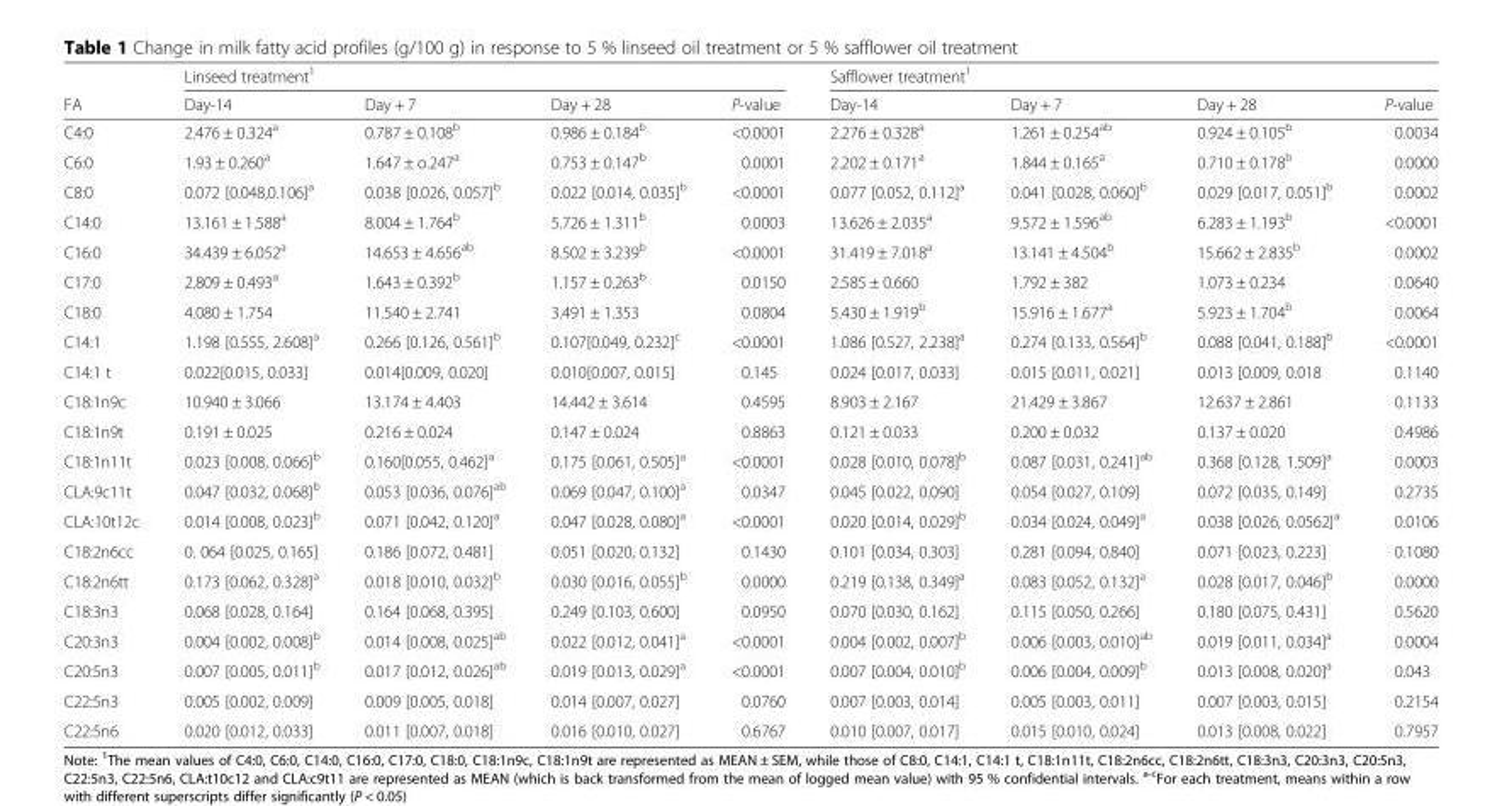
<table><thead><tr><td rowspan="2">FA</td><td colspan="4">Linseed treatment<sup>1</sup></td><td colspan="4">Safflower treatment<sup>1</sup></td></tr><tr><td>Day-14</td><td>Day + 7</td><td>Day + 28</td><td>P-value</td><td>Day-14</td><td>Day + 7</td><td>Day + 28</td><td>P-value</td></tr></thead><tbody><tr><td>C4:0</td><td>2.476 ± 0.324<sup>a</sup></td><td>0.787 ± 0.108<sup>b</sup></td><td>0.986 ± 0.184<sup>b</sup></td><td>&lt;0.0001</td><td>2.276 ± 0.328<sup>a</sup></td><td>1.261 ± 0.254<sup>ab</sup></td><td>0.924 ± 0.105<sup>b</sup></td><td>0.0034</td></tr><tr><td>C6:0</td><td>1.93 ± 0.260<sup>a</sup></td><td>1.647 ± o.247<sup>a</sup></td><td>0.753 ± 0.147<sup>b</sup></td><td>0.0001</td><td>2.202 ± 0.171<sup>a</sup></td><td>1.844 ± 0.165<sup>a</sup></td><td>0.710 ± 0.178<sup>b</sup></td><td>0.0000</td></tr><tr><td>C8:0</td><td>0.072 [0.048,0.106]<sup>a</sup></td><td>0.038 [0.026, 0.057]<sup>b</sup></td><td>0.022 [0.014, 0.035]<sup>b</sup></td><td>&lt;0.0001</td><td>0.077 [0.052, 0.112]<sup>a</sup></td><td>0.041 [0.028, 0.060]<sup>b</sup></td><td>0.029 [0.017, 0.051]<sup>b</sup></td><td>0.0002</td></tr><tr><td>C14:0</td><td>13.161 ± 1.588<sup>a</sup></td><td>8.004 ± 1.764<sup>b</sup></td><td>5.726 ± 1.311<sup>b</sup></td><td>0.0003</td><td>13.626 ± 2.035<sup>a</sup></td><td>9.572 ± 1.596<sup>ab</sup></td><td>6.283 ± 1.193<sup>b</sup></td><td>&lt;0.0001</td></tr><tr><td>C16:0</td><td>34.439 ± 6.052<sup>a</sup></td><td>14.653 ± 4.656<sup>ab</sup></td><td>8.502 ± 3.239<sup>b</sup></td><td>&lt;0.0001</td><td>31.419 ± 7.018<sup>a</sup></td><td>13.141 ± 4.504<sup>b</sup></td><td>15.662 ± 2.835<sup>b</sup></td><td>0.0002</td></tr><tr><td>C17:0</td><td>2.809 ± 0.493<sup>a</sup></td><td>1.643 ± 0.392<sup>b</sup></td><td>1.157 ± 0.263<sup>b</sup></td><td>0.0150</td><td>2.585 ± 0.660</td><td>1.792 ± 382</td><td>1.073 ± 0.234</td><td>0.0640</td></tr><tr><td>C18:0</td><td>4.080 ± 1.754</td><td>11.540 ± 2.741</td><td>3.491 ± 1.353</td><td>0.0804</td><td>5.430 ± 1.919<sup>b</sup></td><td>15.916 ± 1.677<sup>a</sup></td><td>5.923 ± 1.704<sup>b</sup></td><td>0.0064</td></tr><tr><td>C14:1</td><td>1.198 [0.555, 2.608]<sup>a</sup></td><td>0.266 [0.126, 0.561]<sup>b</sup></td><td>0.107[0.049, 0.232]<sup>c</sup></td><td>&lt;0.0001</td><td>1.086 [0.527, 2.238]<sup>a</sup></td><td>0.274 [0.133, 0.564]<sup>b</sup></td><td>0.088 [0.041, 0.188]<sup>b</sup></td><td>&lt;0.0001</td></tr><tr><td>C14:1 t</td><td>0.022[0.015, 0.033]</td><td>0.014[0.009, 0.020]</td><td>0.010[0.007, 0.015]</td><td>0.145</td><td>0.024 [0.017, 0.033]</td><td>0.015 [0.011, 0.021]</td><td>0.013 [0.009, 0.018</td><td>0.1140</td></tr><tr><td>C18:1n9c</td><td>10.940 ± 3.066</td><td>13.174 ± 4.403</td><td>14.442 ± 3.614</td><td>0.4595</td><td>8.903 ± 2.167</td><td>21.429 ± 3.867</td><td>12.637 ± 2.861</td><td>0.1133</td></tr><tr><td>C18:1n9t</td><td>0.191 ± 0.025</td><td>0.216 ± 0.024</td><td>0.147 ± 0.024</td><td>0.8863</td><td>0.121 ± 0.033</td><td>0.200 ± 0.032</td><td>0.137 ± 0.020</td><td>0.4986</td></tr><tr><td>C18:1n11t</td><td>0.023 [0.008, 0.066]<sup>b</sup></td><td>0.160[0.055, 0.462]<sup>a</sup></td><td>0.175 [0.061, 0.505]<sup>a</sup></td><td>&lt;0.0001</td><td>0.028 [0.010, 0.078]<sup>b</sup></td><td>0.087 [0.031, 0.241]<sup>ab</sup></td><td>0.368 [0.128, 1.509]<sup>a</sup></td><td>0.0003</td></tr><tr><td>CLA:9c11t</td><td>0.047 [0.032, 0.068]<sup>b</sup></td><td>0.053 [0.036, 0.076]<sup>ab</sup></td><td>0.069 [0.047, 0.100]<sup>a</sup></td><td>0.0347</td><td>0.045 [0.022, 0.090]</td><td>0.054 [0.027, 0.109]</td><td>0.072 [0.035, 0.149]</td><td>0.2735</td></tr><tr><td>CLA:10t12c</td><td>0.014 [0.008, 0.023]<sup>b</sup></td><td>0.071 [0.042, 0.120]<sup>a</sup></td><td>0.047 [0.028, 0.080]<sup>a</sup></td><td>&lt;0.0001</td><td>0.020 [0.014, 0.029]<sup>b</sup></td><td>0.034 [0.024, 0.049]<sup>a</sup></td><td>0.038 [0.026, 0.0562]<sup>a</sup></td><td>0.0106</td></tr><tr><td>C18:2n6cc</td><td>0. 064 [0.025, 0.165]</td><td>0.186 [0.072, 0.481]</td><td>0.051 [0.020, 0.132]</td><td>0.1430</td><td>0.101 [0.034, 0.303]</td><td>0.281 [0.094, 0.840]</td><td>0.071 [0.023, 0.223]</td><td>0.1080</td></tr><tr><td>C18:2n6tt</td><td>0.173 [0.062, 0.328]<sup>a</sup></td><td>0.018 [0.010, 0.032]<sup>b</sup></td><td>0.030 [0.016, 0.055]<sup>b</sup></td><td>0.0000</td><td>0.219 [0.138, 0.349]<sup>a</sup></td><td>0.083 [0.052, 0.132]<sup>a</sup></td><td>0.028 [0.017, 0.046]<sup>b</sup></td><td>0.0000</td></tr><tr><td>C18:3n3</td><td>0.068 [0.028, 0.164]</td><td>0.164 [0.068, 0.395]</td><td>0.249 [0.103, 0.600]</td><td>0.0950</td><td>0.070 [0.030, 0.162]</td><td>0.115 [0.050, 0.266]</td><td>0.180 [0.075, 0.431]</td><td>0.5620</td></tr><tr><td>C20:3n3</td><td>0.004 [0.002, 0.008]<sup>b</sup></td><td>0.014 [0.008, 0.025]<sup>ab</sup></td><td>0.022 [0.012, 0.041]<sup>a</sup></td><td>&lt;0.0001</td><td>0.004 [0.002, 0.007]<sup>b</sup></td><td>0.006 [0.003, 0.010]<sup>ab</sup></td><td>0.019 [0.011, 0.034]<sup>a</sup></td><td>0.0004</td></tr><tr><td>C20:5n3</td><td>0.007 [0.005, 0.011]<sup>b</sup></td><td>0.017 [0.012, 0.026]<sup>ab</sup></td><td>0.019 [0.013, 0.029]<sup>a</sup></td><td>&lt;0.0001</td><td>0.007 [0.004, 0.010]<sup>b</sup></td><td>0.006 [0.004, 0.009]<sup>b</sup></td><td>0.013 [0.008, 0.020]<sup>a</sup></td><td>0.043</td></tr><tr><td>C22:5n3</td><td>0.005 [0.002, 0.009]</td><td>0.009 [0.005, 0.018]</td><td>0.014 [0.007, 0.027]</td><td>0.0760</td><td>0.007 [0.003, 0.014]</td><td>0.005 [0.003, 0.011]</td><td>0.007 [0.003, 0.015]</td><td>0.2154</td></tr><tr><td>C22:5n6</td><td>0.020 [0.012, 0.033]</td><td>0.011 [0.007, 0.018]</td><td>0.016 [0.010, 0.027]</td><td>0.6767</td><td>0.010 [0.007, 0.017]</td><td>0.015 [0.010, 0.024]</td><td>0.013 [0.008, 0.022]</td><td>0.7957</td></tr></tbody></table>